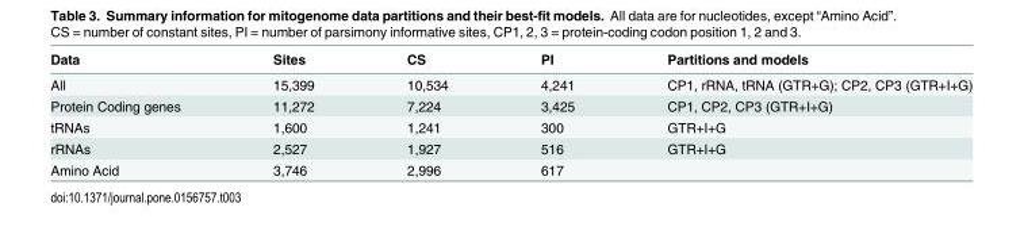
<table><thead><tr><td>Data</td><td>Sites</td><td>CS</td><td>PI</td><td>Partitions and models</td></tr></thead><tbody><tr><td>All</td><td>15,399</td><td>10,534</td><td>4,241</td><td>CP1, rRNA, tRNA (GTR+G); CP2, CP3 (GTR+I+G)</td></tr><tr><td>Protein Coding genes</td><td>11,272</td><td>7,224</td><td>3,425</td><td>CP1, CP2, CP3 (GTR+I+G)</td></tr><tr><td>tRNAs</td><td>1,600</td><td>1,241</td><td>300</td><td>GTR+I+G</td></tr><tr><td>rRNAs</td><td>2,527</td><td>1,927</td><td>516</td><td>GTR+I+G</td></tr><tr><td>Amino Acid</td><td>3,746</td><td>2,996</td><td>617</td><td></td></tr></tbody></table>